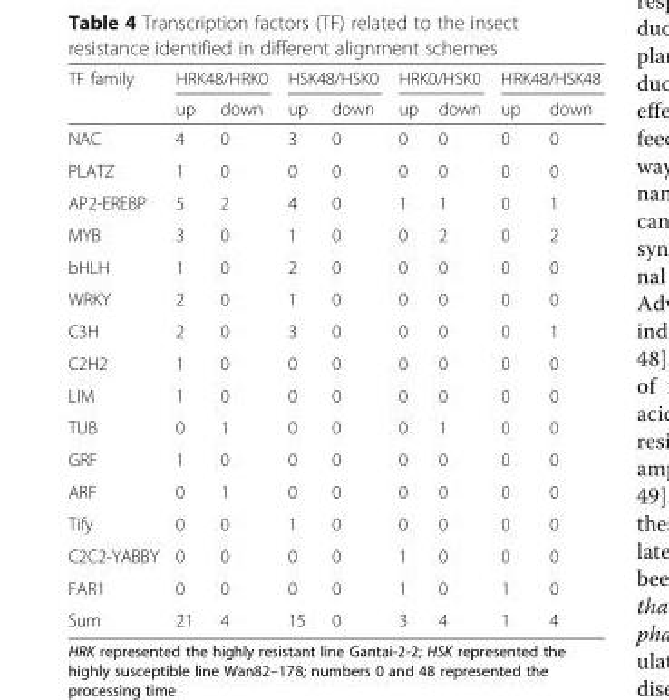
<table><thead><tr><td rowspan="2">TF family</td><td colspan="2">HRK48/HRK0</td><td colspan="2">HSK48/HSK0</td><td colspan="2">HRK0/HSK0</td><td colspan="2">HRK48/HSK48</td></tr><tr><td>up</td><td>down</td><td>up</td><td>down</td><td>up</td><td>down</td><td>up</td><td>down</td></tr></thead><tbody><tr><td>NAC</td><td>4</td><td>0</td><td>3</td><td>0</td><td>0</td><td>0</td><td>0</td><td>0</td></tr><tr><td>PLATZ</td><td>1</td><td>0</td><td>0</td><td>0</td><td>0</td><td>0</td><td>0</td><td>0</td></tr><tr><td>AP2-EREBP</td><td>5</td><td>2</td><td>4</td><td>0</td><td>1</td><td>1</td><td>0</td><td>1</td></tr><tr><td>MYB</td><td>3</td><td>0</td><td>1</td><td>0</td><td>0</td><td>2</td><td>0</td><td>2</td></tr><tr><td>bHLH</td><td>1</td><td>0</td><td>2</td><td>0</td><td>0</td><td>0</td><td>0</td><td>0</td></tr><tr><td>WRKY</td><td>2</td><td>0</td><td>1</td><td>0</td><td>0</td><td>0</td><td>0</td><td>0</td></tr><tr><td>C3H</td><td>2</td><td>0</td><td>3</td><td>0</td><td>0</td><td>0</td><td>0</td><td>1</td></tr><tr><td>C2H2</td><td>1</td><td>0</td><td>0</td><td>0</td><td>0</td><td>0</td><td>0</td><td>0</td></tr><tr><td>LIM</td><td>1</td><td>0</td><td>0</td><td>0</td><td>0</td><td>0</td><td>0</td><td>0</td></tr><tr><td>TUB</td><td>0</td><td>1</td><td>0</td><td>0</td><td>0</td><td>1</td><td>0</td><td>0</td></tr><tr><td>GRF</td><td>1</td><td>0</td><td>0</td><td>0</td><td>0</td><td>0</td><td>0</td><td>0</td></tr><tr><td>ARF</td><td>0</td><td>1</td><td>0</td><td>0</td><td>0</td><td>0</td><td>0</td><td>0</td></tr><tr><td>Tify</td><td>0</td><td>0</td><td>1</td><td>0</td><td>0</td><td>0</td><td>0</td><td>0</td></tr><tr><td>C2C2-YABBY</td><td>0</td><td>0</td><td>0</td><td>0</td><td>1</td><td>0</td><td>0</td><td>0</td></tr><tr><td>FAR1</td><td>0</td><td>0</td><td>0</td><td>0</td><td>1</td><td>0</td><td>1</td><td>0</td></tr><tr><td>Sum</td><td>21</td><td>4</td><td>15</td><td>0</td><td>3</td><td>4</td><td>1</td><td>4</td></tr></tbody></table>